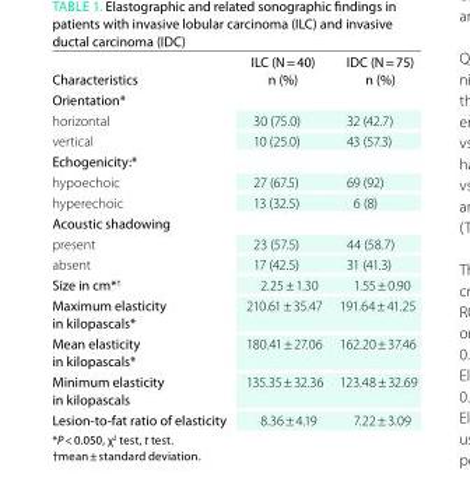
<table><thead><tr><td rowspan="2">Characteristics</td><td rowspan="2">ILC (n = 40) n (%)</td><td rowspan="2">IDC (n = 75) n (%)</td></tr><tr></tr></thead><tbody><tr><td colspan="3">orientation*</td></tr><tr><td>horizontal</td><td>30 (75.0)</td><td>32 (42.7)</td></tr><tr><td>vertical</td><td>10 (25.0)</td><td>43 (57.3)</td></tr><tr><td colspan="3">Echogenicity:*</td></tr><tr><td>hypoechoic</td><td>27 (67.5)</td><td>69 (92)</td></tr><tr><td>hyperechoic</td><td>13 (32.5)</td><td>6 (8)</td></tr><tr><td colspan="3">acoustic shadowing</td></tr><tr><td>present</td><td>23 (57.5)</td><td>44 (58.7)</td></tr><tr><td>absent</td><td>17 (42.5)</td><td>31 (41.3)</td></tr><tr><td>size in cm*<sup>†</sup></td><td>2.25 ± 1.30</td><td>1.55 ± 0.90</td></tr><tr><td>Maximum elasticity in kilopascals*</td><td>210.61 ± 35.47</td><td>191.64 ± 41.25</td></tr><tr><td>Mean elasticity in kilopascals*</td><td>180.41 ± 27.06</td><td>162.20 ± 37.46</td></tr><tr><td>Minimum elasticity in kilopascals</td><td>135.35 ± 32.36</td><td>123.48 ± 32.69</td></tr><tr><td>Lesion-to-fat ratio of elasticity</td><td>8.36 ± 4.19</td><td>7.22 ± 3.09</td></tr></tbody></table>